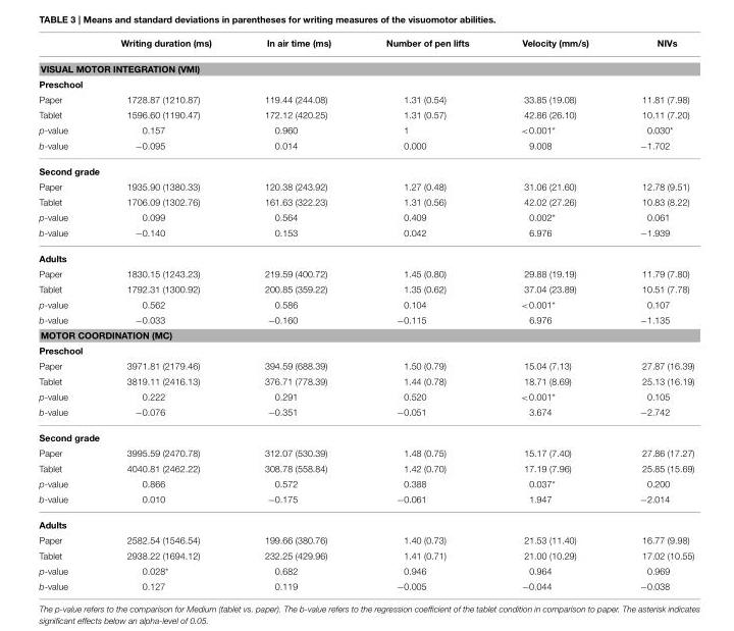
<table><thead><tr><td></td><td>Writing duration (ms)</td><td>In air time (ms)</td><td>Number of pen lifts</td><td>Velocity (mm/s)</td><td>NIVs</td></tr></thead><tbody><tr><td colspan="6">VISUAL MOTOR INTEGRATION (VMI)</td></tr><tr><td colspan="6">Preschool</td></tr><tr><td>Paper</td><td>1728.87 (1210.87)</td><td>119.44 (244.08)</td><td>1.31 (0.54)</td><td>33.85 (19.08)</td><td>11.81 (7.98)</td></tr><tr><td>Tablet</td><td>1596.60 (1190.47)</td><td>172.12 (420.25)</td><td>1.31 (0.57)</td><td>42.86 (26.10)</td><td>10.11 (7.20)</td></tr><tr><td>p-value</td><td>0.157</td><td>0.960</td><td>1</td><td>&lt;0.001*</td><td>0.030*</td></tr><tr><td>b-value</td><td>−0.095</td><td>0.014</td><td>0.000</td><td>9.008</td><td>−1.702</td></tr><tr><td colspan="6">Second grade</td></tr><tr><td>Paper</td><td>1935.90 (1380.33)</td><td>120.38 (243.92)</td><td>1.27 (0.48)</td><td>31.06 (21.60)</td><td>12.78 (9.51)</td></tr><tr><td>Tablet</td><td>1706.09 (1302.76)</td><td>161.63 (322.23)</td><td>1.31 (0.56)</td><td>42.02 (27.26)</td><td>10.83 (8.22)</td></tr><tr><td>p-value</td><td>0.099</td><td>0.564</td><td>0.409</td><td>0.002*</td><td>0.061</td></tr><tr><td>b-value</td><td>−0.140</td><td>0.153</td><td>0.042</td><td>6.976</td><td>−1.939</td></tr><tr><td colspan="6">Adults</td></tr><tr><td>Paper</td><td>1830.15 (1243.23)</td><td>219.59 (400.72)</td><td>1.45 (0.80)</td><td>29.88 (19.19)</td><td>11.79 (7.80)</td></tr><tr><td>Tablet</td><td>1792.31 (1300.92)</td><td>200.85 (359.22)</td><td>1.35 (0.62)</td><td>37.04 (23.89)</td><td>10.51 (7.78)</td></tr><tr><td>p-value</td><td>0.562</td><td>0.586</td><td>0.104</td><td>&lt;0.001*</td><td>0.107</td></tr><tr><td>b-value</td><td>−0.033</td><td>−0.160</td><td>−0.115</td><td>6.976</td><td>−1.135</td></tr><tr><td colspan="6">MOTOR COORDINATION (MC)</td></tr><tr><td colspan="6">Preschool</td></tr><tr><td>Paper</td><td>3971.81 (2179.46)</td><td>394.59 (688.39)</td><td>1.50 (0.79)</td><td>15.04 (7.13)</td><td>27.87 (16.39)</td></tr><tr><td>Tablet</td><td>3819.11 (2416.13)</td><td>376.71 (778.39)</td><td>1.44 (0.78)</td><td>18.71 (8.69)</td><td>25.13 (16.19)</td></tr><tr><td>p-value</td><td>0.222</td><td>0.291</td><td>0.520</td><td>&lt;0.001*</td><td>0.105</td></tr><tr><td>b-value</td><td>−0.076</td><td>−0.351</td><td>−0.051</td><td>3.674</td><td>−2.742</td></tr><tr><td colspan="6">Second grade</td></tr><tr><td>Paper</td><td>3995.59 (2470.78)</td><td>312.07 (530.39)</td><td>1.48 (0.75)</td><td>15.17 (7.40)</td><td>27.86 (17.27)</td></tr><tr><td>Tablet</td><td>4040.81 (2462.22)</td><td>308.78 (558.84)</td><td>1.42 (0.70)</td><td>17.19 (7.96)</td><td>25.85 (15.69)</td></tr><tr><td>p-value</td><td>0.866</td><td>0.572</td><td>0.388</td><td>0.037*</td><td>0.200</td></tr><tr><td>b-value</td><td>0.010</td><td>−0.175</td><td>−0.061</td><td>1.947</td><td>−2.014</td></tr><tr><td colspan="6">Adults</td></tr><tr><td>Paper</td><td>2582.54 (1546.54)</td><td>199.66 (380.76)</td><td>1.40 (0.73)</td><td>21.53 (11.40)</td><td>16.77 (9.98)</td></tr><tr><td>Tablet</td><td>2938.22 (1694.12)</td><td>232.25 (429.96)</td><td>1.41 (0.71)</td><td>21.00 (10.29)</td><td>17.02 (10.55)</td></tr><tr><td>p-value</td><td>0.028*</td><td>0.682</td><td>0.946</td><td>0.964</td><td>0.969</td></tr><tr><td>b-value</td><td>0.127</td><td>0.119</td><td>−0.005</td><td>−0.044</td><td>−0.038</td></tr></tbody></table>